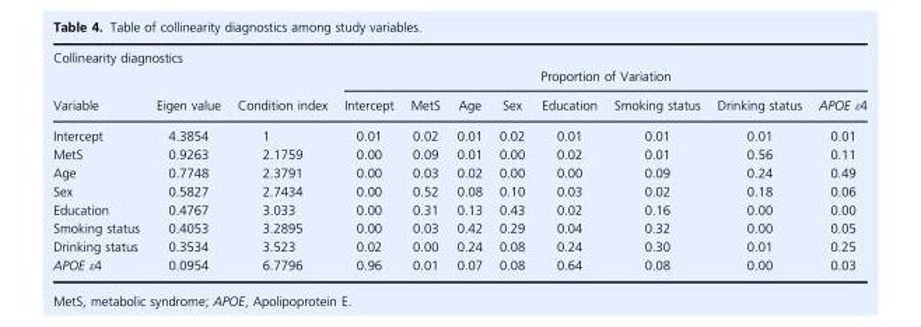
<table><thead><tr><td colspan="11">Collinearity diagnostics</td></tr><tr><td rowspan="2">Variable</td><td rowspan="2">Eigen value</td><td rowspan="2">Condition index</td><td colspan="8">Proportion of Variation</td></tr><tr><td>Intercept</td><td>MetS</td><td>Age</td><td>Sex</td><td>Education</td><td>Smoking status</td><td>Drinking status</td><td>APOE ε4</td></tr></thead><tbody><tr><td>Intercept</td><td>4.3854</td><td>1</td><td>0.01</td><td>0.02</td><td>0.01</td><td>0.02</td><td>0.01</td><td>0.01</td><td>0.01</td><td>0.01</td></tr><tr><td>MetS</td><td>0.9263</td><td>2.1759</td><td>0.00</td><td>0.09</td><td>0.01</td><td>0.00</td><td>0.02</td><td>0.01</td><td>0.56</td><td>0.11</td></tr><tr><td>Age</td><td>0.7748</td><td>2.3791</td><td>0.00</td><td>0.03</td><td>0.02</td><td>0.00</td><td>0.00</td><td>0.09</td><td>0.24</td><td>0.49</td></tr><tr><td>Sex</td><td>0.5827</td><td>2.7434</td><td>0.00</td><td>0.52</td><td>0.08</td><td>0.10</td><td>0.03</td><td>0.02</td><td>0.18</td><td>0.06</td></tr><tr><td>Education</td><td>0.4767</td><td>3.033</td><td>0.00</td><td>0.31</td><td>0.13</td><td>0.43</td><td>0.02</td><td>0.16</td><td>0.00</td><td>0.00</td></tr><tr><td>Smoking status</td><td>0.4053</td><td>3.2895</td><td>0.00</td><td>0.03</td><td>0.42</td><td>0.29</td><td>0.04</td><td>0.32</td><td>0.00</td><td>0.05</td></tr><tr><td>Drinking status</td><td>0.3534</td><td>3.523</td><td>0.02</td><td>0.00</td><td>0.24</td><td>0.08</td><td>0.24</td><td>0.30</td><td>0.01</td><td>0.25</td></tr><tr><td>APOE ε4</td><td>0.0954</td><td>6.7796</td><td>0.96</td><td>0.01</td><td>0.07</td><td>0.08</td><td>0.64</td><td>0.08</td><td>0.00</td><td>0.03</td></tr></tbody></table>